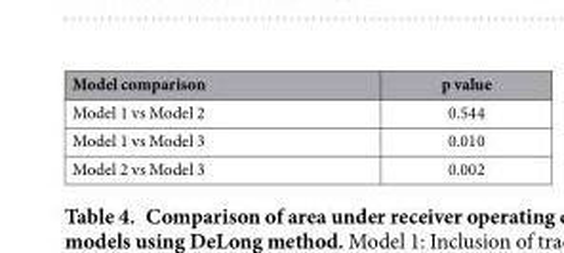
<table><thead><tr><td>Model comparison</td><td>p value</td></tr></thead><tbody><tr><td>Model 1 vs Model 2</td><td>0.544</td></tr><tr><td>Model 1 vs Model 3</td><td>0.010</td></tr><tr><td>Model 2 vs Model 3</td><td>0.002</td></tr></tbody></table>